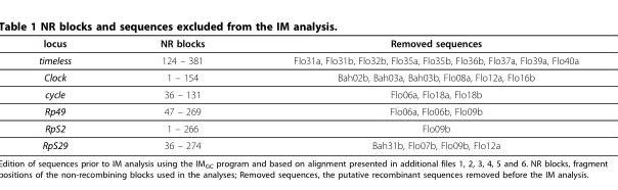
<table><thead><tr><td>locus</td><td>NR blocks</td><td>Removed sequences</td></tr></thead><tbody><tr><td>timeless</td><td>124 – 381</td><td>Flo31a, Flo31b, Flo32b, Flo35a, Flo35b, Flo36b, Flo37a, Flo39a, Flo40a</td></tr><tr><td>Clock</td><td>1 – 154</td><td>Bah02b, Bah03a, Bah03b, Flo08a, Flo12a, Flo16b</td></tr><tr><td>cycle</td><td>36 – 131</td><td>Flo06a, Flo18a, Flo18b</td></tr><tr><td>Rp49</td><td>47 – 269</td><td>Flo06a, Flo06b, Flo09b</td></tr><tr><td>RpS2</td><td>1 – 266</td><td>Flo09b</td></tr><tr><td>RpS29</td><td>36 – 274</td><td>Bah31b, Flo07b, Flo09b, Flo12a</td></tr></tbody></table>